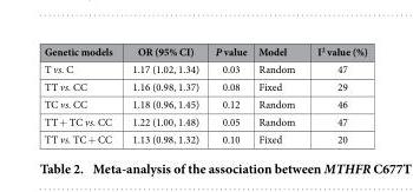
<table><thead><tr><td>Genetic models</td><td>OR (95% CI)</td><td>P value</td><td>Model</td><td>I<sup>2</sup> value (%)</td></tr></thead><tbody><tr><td>T vs. C</td><td>1.17 (1.02, 1.34)</td><td>0.03</td><td>Random</td><td>47</td></tr><tr><td>TT vs. CC</td><td>1.16 (0.98, 1.37)</td><td>0.08</td><td>Fixed</td><td>29</td></tr><tr><td>TC vs. CC</td><td>1.18 (0.96, 1.45)</td><td>0.12</td><td>Random</td><td>46</td></tr><tr><td>TT + TC vs. CC</td><td>1.22 (1.00, 1.48)</td><td>0.05</td><td>Random</td><td>47</td></tr><tr><td>TT vs. TC + CC</td><td>1.13 (0.98, 1.32)</td><td>0.10</td><td>Fixed</td><td>20</td></tr></tbody></table>